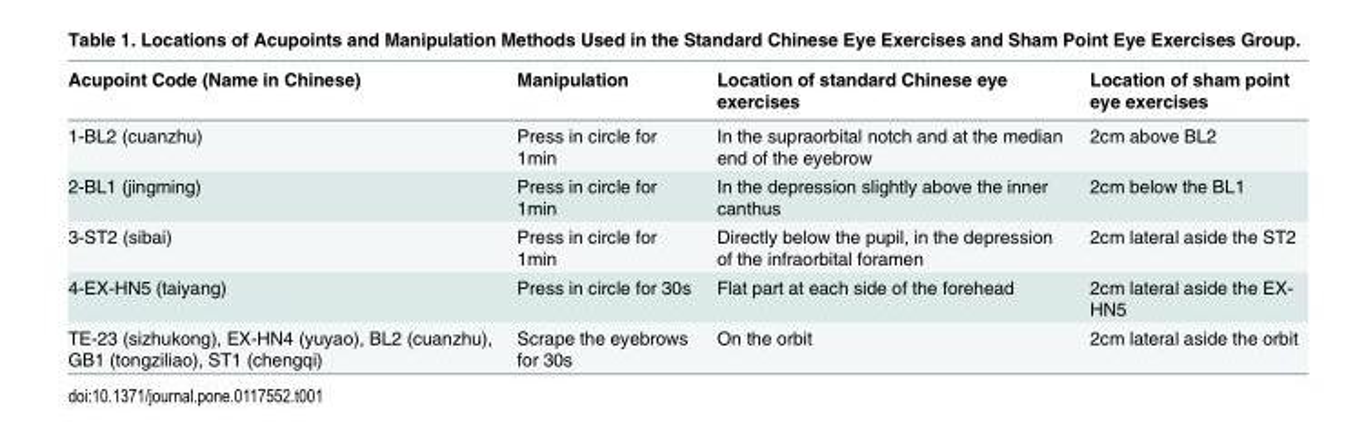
<table><thead><tr><td>Acupoint Code (Name in Chinese)</td><td>Manipulation</td><td>Location of standard Chinese eye exercises</td><td>Location of sham point eye exercises</td></tr></thead><tbody><tr><td>1-BL2 (cuanzhu)</td><td>Press in circle for 1min</td><td>In the supraorbital notch and at the median end of the eyebrow</td><td>2cm above BL2</td></tr><tr><td>2-BL1 (jingming)</td><td>Press in circle for 1min</td><td>In the depression slightly above the inner canthus</td><td>2cm below the BL1</td></tr><tr><td>3-ST2 (sibai)</td><td>Press in circle for 1min</td><td>Directly below the pupil, in the depression of the infraorbital foramen</td><td>2cm lateral aside the ST2</td></tr><tr><td>4-EX-HN5 (taiyang)</td><td>Press in circle for 30s</td><td>Flat part at each side of the forehead</td><td>2cm lateral aside the EX- HN5</td></tr><tr><td>TE-23 (sizhukong), EX-HN4 (yuyao), BL2 (cuanzhu), GB1 (tongziliao), ST1 (chengqi)</td><td>Scrape the eyebrows for 30s</td><td>On the orbit</td><td>2cm lateral aside the orbit</td></tr></tbody></table>